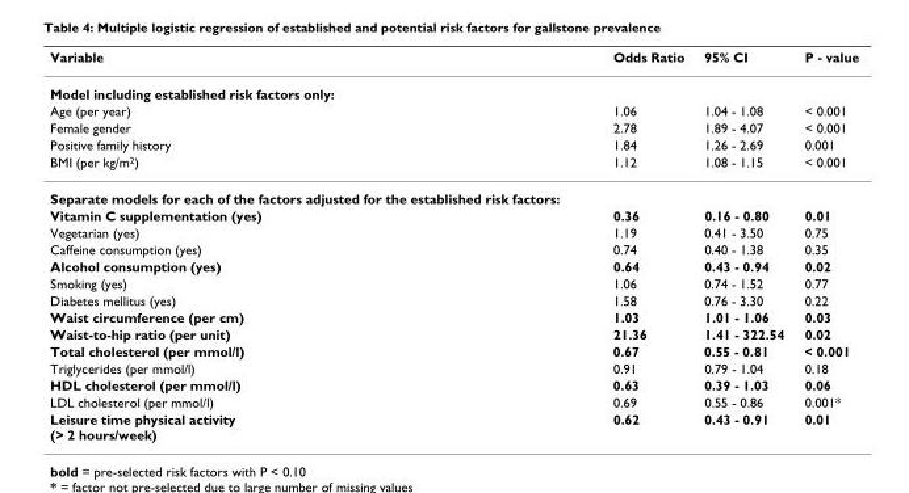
<table><thead><tr><td>Variable</td><td>Odds Ratio</td><td>95% CI</td><td>P - value</td></tr></thead><tbody><tr><td colspan="4">Model including established risk factors only:</td></tr><tr><td>Age (per year)</td><td>1.06</td><td>1.04 - 1.08</td><td>&lt; 0.001</td></tr><tr><td>Female gender</td><td>2.78</td><td>1.89 - 4.07</td><td>&lt; 0.001</td></tr><tr><td>Positive family history</td><td>1.84</td><td>1.26 - 2.69</td><td>0.001</td></tr><tr><td>BMI (per kg/m<sup>2</sup>)</td><td>1.12</td><td>1.08 - 1.15</td><td>&lt; 0.001</td></tr><tr><td colspan="4">Separate models for each of the factors adjusted for the established risk factors:</td></tr><tr><td>Vitamin C supplementation (yes)</td><td>0.36</td><td>0.16 - 0.80</td><td>0.01</td></tr><tr><td>Vegetarian (yes)</td><td>1.19</td><td>0.41 - 3.50</td><td>0.75</td></tr><tr><td>Caffeine consumption (yes)</td><td>0.74</td><td>0.40 - 1.38</td><td>0.35</td></tr><tr><td>Alcohol consumption (yes)</td><td>0.64</td><td>0.43 - 0.94</td><td>0.02</td></tr><tr><td>Smoking (yes)</td><td>1.06</td><td>0.74 - 1.52</td><td>0.77</td></tr><tr><td>Diabetes mellitus (yes)</td><td>1.58</td><td>0.76 - 3.30</td><td>0.22</td></tr><tr><td>Waist circumference (per cm)</td><td>1.03</td><td>1.01 - 1.06</td><td>0.03</td></tr><tr><td>Waist-to-hip ratio (per unit)</td><td>21.36</td><td>1.41 - 322.54</td><td>0.02</td></tr><tr><td>Total cholesterol (per mmol/l)</td><td>0.67</td><td>0.55 - 0.81</td><td>&lt; 0.001</td></tr><tr><td>Triglycerides (per mmol/l)</td><td>0.91</td><td>0.79 - 1.04</td><td>0.18</td></tr><tr><td>HDL cholesterol (per mmol/l)</td><td>0.63</td><td>0.39 - 1.03</td><td>0.06</td></tr><tr><td>LDL cholesterol (per mmol/l)</td><td>0.69</td><td>0.55 - 0.86</td><td>0.001*</td></tr><tr><td>Leisure time physical activity (&gt; 2 hours/week)</td><td>0.62</td><td>0.43 - 0.91</td><td>0.01</td></tr></tbody></table>